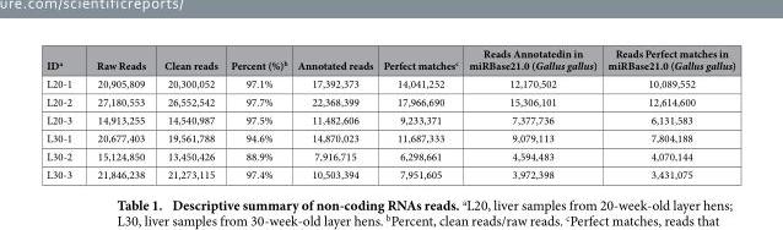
<table><thead><tr><td>ID<sup>a</sup></td><td>Raw Reads</td><td>Clean reads</td><td>Percent (%)<sup>b</sup></td><td>Annotated reads</td><td>Perfect matches<sup>c</sup></td><td>Reads Annotatedin in miRBase21.0 (Gallus gallus)</td><td>Reads Perfect matches in miRBase21.0 (Gallus gallus)</td></tr></thead><tbody><tr><td>L20-1</td><td>20,905,809</td><td>20,300,052</td><td>97.1%</td><td>17,392,373</td><td>14,041,252</td><td>12,170,502</td><td>10,089,552</td></tr><tr><td>L20-2</td><td>27,180,553</td><td>26,552,542</td><td>97.7%</td><td>22,368,399</td><td>17,966,690</td><td>15,306,101</td><td>12,614,600</td></tr><tr><td>L20-3</td><td>14,913,255</td><td>14,540,987</td><td>97.5%</td><td>11,482,606</td><td>9,233,371</td><td>7,377,736</td><td>6,131,583</td></tr><tr><td>L30-1</td><td>20,677,403</td><td>19,561,788</td><td>94.6%</td><td>14,870,023</td><td>11,687,333</td><td>9,079,113</td><td>7,804,188</td></tr><tr><td>L30-2</td><td>15,124,850</td><td>13,450,426</td><td>88.9%</td><td>7,916,715</td><td>6,298,661</td><td>4,594,483</td><td>4,070,144</td></tr><tr><td>L30-3</td><td>21,846,238</td><td>21,273,115</td><td>97.4%</td><td>10,503,394</td><td>7,951,605</td><td>3,972,398</td><td>3,431,075</td></tr></tbody></table>